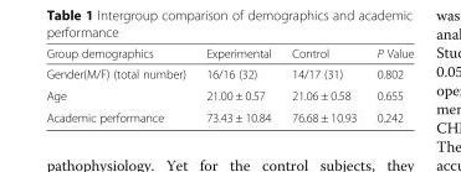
<table><thead><tr><td>Group demographics</td><td>Experimental</td><td>Control</td><td>P Value</td></tr></thead><tbody><tr><td>Gender(M/F) (total number)</td><td>16/16 (32)</td><td>14/17 (31)</td><td>0.802</td></tr><tr><td>Age</td><td>21.00 ± 0.57</td><td>21.06 ± 0.58</td><td>0.655</td></tr><tr><td>Academic performance</td><td>73.43 ± 10.84</td><td>76.68 ± 10.93</td><td>0.242</td></tr></tbody></table>